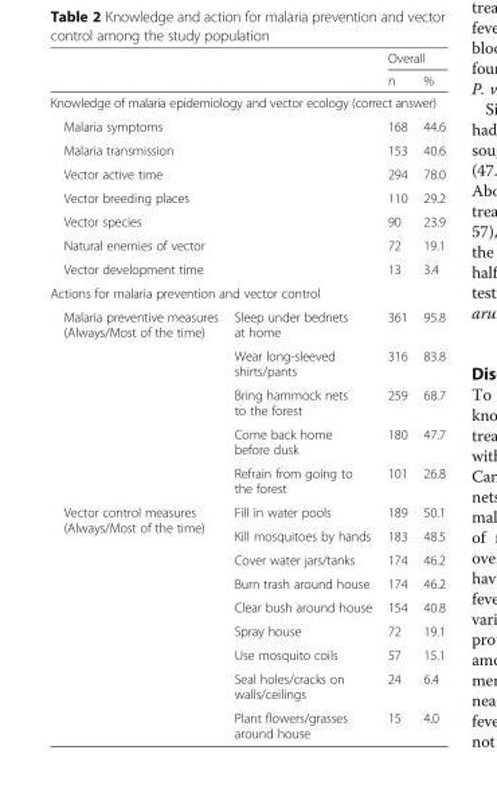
<table><thead><tr><td rowspan="2"></td><td rowspan="2"></td><td colspan="2">Overall</td></tr><tr><td>n</td><td>%</td></tr></thead><tbody><tr><td colspan="4">Knowledge of malaria epidemiology and vector ecology (correct answer)</td></tr><tr><td colspan="2">Malaria symptoms</td><td>168</td><td>44.6</td></tr><tr><td colspan="2">Malaria transmission</td><td>153</td><td>40.6</td></tr><tr><td colspan="2">Vector active time</td><td>294</td><td>78.0</td></tr><tr><td colspan="2">Vector breeding places</td><td>110</td><td>29.2</td></tr><tr><td colspan="2">Vector species</td><td>90</td><td>23.9</td></tr><tr><td colspan="2">Natural enemies of vector</td><td>72</td><td>19.1</td></tr><tr><td colspan="2">Vector development time</td><td>13</td><td>3.4</td></tr><tr><td colspan="4">Actions for malaria prevention and vector control</td></tr><tr><td rowspan="5">Malaria preventive measures (Always/Most of the time)</td><td>Sleep under bednets at home</td><td>361</td><td>95.8</td></tr><tr><td>Wear long-sleeved shirts/pants</td><td>316</td><td>83.8</td></tr><tr><td>Bring hammock nets to the forest</td><td>259</td><td>68.7</td></tr><tr><td>Come back home before dusk</td><td>180</td><td>47.7</td></tr><tr><td>Refrain from going to the forest</td><td>101</td><td>26.8</td></tr><tr><td rowspan="9">Vector control measures (Always/Most of the time)</td><td>Fill in water pools</td><td>189</td><td>50.1</td></tr><tr><td>Kill mosquitoes by hands</td><td>183</td><td>48.5</td></tr><tr><td>Cover water jars/tanks</td><td>174</td><td>46.2</td></tr><tr><td>Burn trash around house</td><td>174</td><td>46.2</td></tr><tr><td>Clear bush around house</td><td>154</td><td>40.8</td></tr><tr><td>Spray house</td><td>72</td><td>19.1</td></tr><tr><td>Use mosquito coils</td><td>57</td><td>15.1</td></tr><tr><td>Seal holes/cracks on walls/ceilings</td><td>24</td><td>6.4</td></tr><tr><td>Plant flowers/grasses around house</td><td>15</td><td>4.0</td></tr></tbody></table>